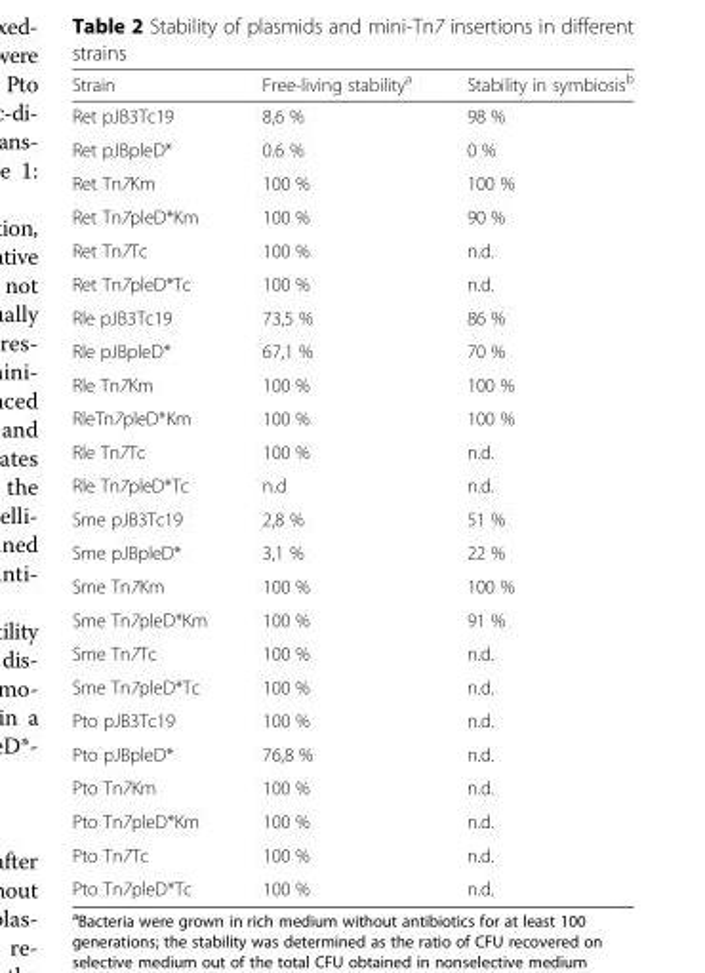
<table><thead><tr><td>Strain</td><td>Free-living stability<sup>a</sup></td><td>Stability in symbiosis<sup>b</sup></td></tr></thead><tbody><tr><td>Ret pJB3Tc19</td><td>8,6 %</td><td>98 %</td></tr><tr><td>Ret pJBpleD*</td><td>0.6 %</td><td>0 %</td></tr><tr><td>Ret Tn7Km</td><td>100 %</td><td>100 %</td></tr><tr><td>Ret Tn7pleD*Km</td><td>100 %</td><td>90 %</td></tr><tr><td>Ret Tn7Tc</td><td>100 %</td><td>n.d.</td></tr><tr><td>Ret Tn7pleD*Tc</td><td>100 %</td><td>n.d.</td></tr><tr><td>Rle pJB3Tc19</td><td>73,5 %</td><td>86 %</td></tr><tr><td>Rle pJBpleD*</td><td>67,1 %</td><td>70 %</td></tr><tr><td>Rle Tn7Km</td><td>100 %</td><td>100 %</td></tr><tr><td>RleTn7pleD*Km</td><td>100 %</td><td>100 %</td></tr><tr><td>Rle Tn7Tc</td><td>100 %</td><td>n.d.</td></tr><tr><td>Rle Tn7pleD*Tc</td><td>n.d</td><td>n.d.</td></tr><tr><td>Sme pJB3Tc19</td><td>2,8 %</td><td>51 %</td></tr><tr><td>Sme pJBpleD*</td><td>3,1 %</td><td>22 %</td></tr><tr><td>Sme Tn7Km</td><td>100 %</td><td>100 %</td></tr><tr><td>Sme Tn7pleD*Km</td><td>100 %</td><td>91 %</td></tr><tr><td>Sme Tn7Tc</td><td>100 %</td><td>n.d.</td></tr><tr><td>Sme Tn7pleD*Tc</td><td>100 %</td><td>n.d.</td></tr><tr><td>Pto pJB3Tc19</td><td>100 %</td><td>n.d.</td></tr><tr><td>Pto pJBpleD*</td><td>76,8 %</td><td>n.d.</td></tr><tr><td>Pto Tn7Km</td><td>100 %</td><td>n.d.</td></tr><tr><td>Pto Tn7pleD*Km</td><td>100 %</td><td>n.d.</td></tr><tr><td>Pto Tn7Tc</td><td>100 %</td><td>n.d.</td></tr><tr><td>Pto Tn7pleD*Tc</td><td>100 %</td><td>n.d.</td></tr></tbody></table>